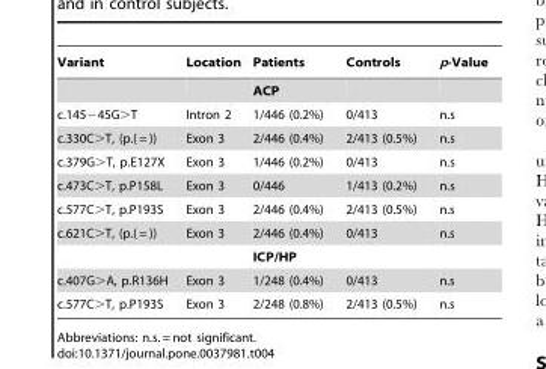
<table><thead><tr><td>Variant</td><td>Location</td><td>Patients</td><td>Controls</td><td>p-Value</td></tr></thead><tbody><tr><td></td><td></td><td>ACP</td><td></td><td></td></tr><tr><td>c.145−45G&gt;T</td><td>Intron 2</td><td>1/446 (0.2%)</td><td>0/413</td><td>n.s</td></tr><tr><td>c.330C&gt;T, (p.( = ))</td><td>Exon 3</td><td>2/446 (0.4%)</td><td>2/413 (0.5%)</td><td>n.s</td></tr><tr><td>c.379G&gt;T, p.E127X</td><td>Exon 3</td><td>1/446 (0.2%)</td><td>0/413</td><td>n.s</td></tr><tr><td>c.473C&gt;T, p.P158L</td><td>Exon 3</td><td>0/446</td><td>1/413 (0.2%)</td><td>n.s</td></tr><tr><td>c.577C&gt;T, p.P193S</td><td>Exon 3</td><td>2/446 (0.4%)</td><td>2/413 (0.5%)</td><td>n.s</td></tr><tr><td rowspan="2">c.621C&gt;T, (p.( = ))</td><td>Exon 3</td><td>2/446 (0.4%)</td><td>0/413</td><td>n.s</td></tr><tr><td></td><td>ICP/HP</td><td></td><td></td></tr><tr><td>c.407G&gt;A, p.R136H</td><td>Exon 3</td><td>1/248 (0.4%)</td><td>0/413</td><td>n.s</td></tr><tr><td>c.577C&gt;T, p.P193S</td><td>Exon 3</td><td>2/248 (0.8%)</td><td>2/413 (0.5%)</td><td>n.s</td></tr></tbody></table>